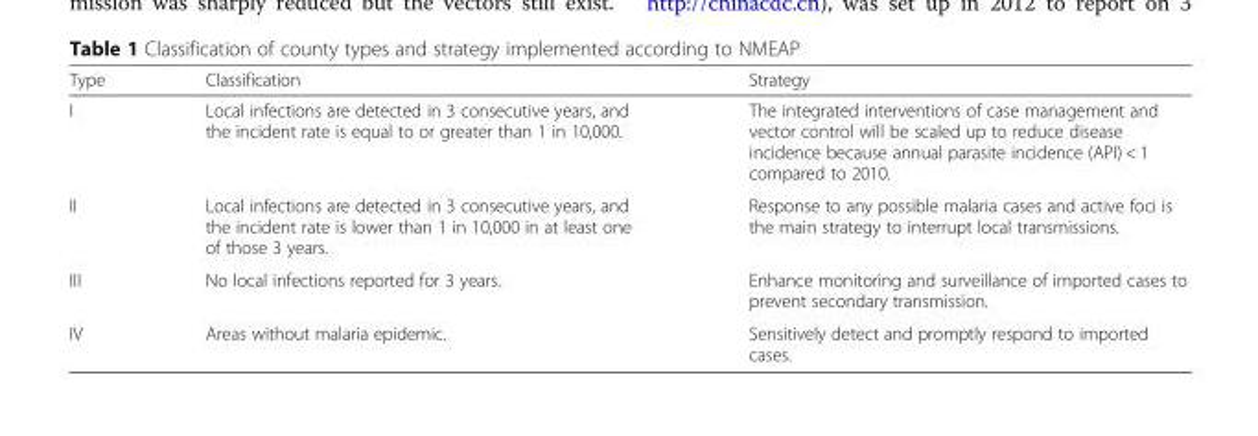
<table><thead><tr><td>Type</td><td>Classification</td><td>Strategy</td></tr></thead><tbody><tr><td>I</td><td>Local infections are detected in 3 consecutive years, and the incident rate is equal to or greater than 1 in 10,000.</td><td>The integrated interventions of case management and vector control will be scaled up to reduce disease incidence because annual parasite incidence (API) &lt; 1 compared to 2010.</td></tr><tr><td>II</td><td>Local infections are detected in 3 consecutive years, and the incident rate is lower than 1 in 10,000 in at least one of those 3 years.</td><td>Response to any possible malaria cases and active foci is the main strategy to interrupt local transmissions.</td></tr><tr><td>III</td><td>No local infections reported for 3 years.</td><td>Enhance monitoring and surveillance of imported cases to prevent secondary transmission.</td></tr><tr><td>IV</td><td>Areas without malaria epidemic.</td><td>Sensitively detect and promptly respond to imported cases.</td></tr></tbody></table>